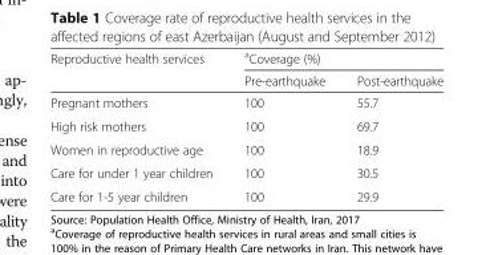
<table><thead><tr><td rowspan="2">Reproductive health services</td><td colspan="2"><sup>a</sup>Coverage (%)</td></tr><tr><td>Pre-earthquake</td><td>Post-earthquake</td></tr></thead><tbody><tr><td>Pregnant mothers</td><td>100</td><td>55.7</td></tr><tr><td>High risk mothers</td><td>100</td><td>69.7</td></tr><tr><td>Women in reproductive age</td><td>100</td><td>18.9</td></tr><tr><td>Care for under 1 year children</td><td>100</td><td>30.5</td></tr><tr><td>Care for 1-5 year children</td><td>100</td><td>29.9</td></tr></tbody></table>